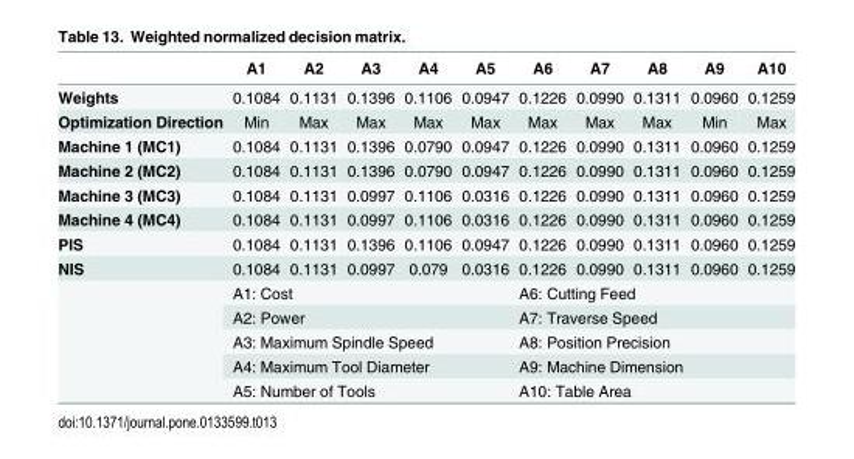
<table><thead><tr><td></td><td>A1</td><td>A2</td><td>A3</td><td>A4</td><td>A5</td><td>A6</td><td>A7</td><td>A8</td><td>A9</td><td>A10</td></tr></thead><tbody><tr><td>Weights</td><td>0.1084</td><td>0.1131</td><td>0.1396</td><td>0.1106</td><td>0.0947</td><td>0.1226</td><td>0.0990</td><td>0.1311</td><td>0.0960</td><td>0.1259</td></tr><tr><td>Optimization Direction</td><td>Min</td><td>Max</td><td>Max</td><td>Max</td><td>Max</td><td>Max</td><td>Max</td><td>Max</td><td>Min</td><td>Max</td></tr><tr><td>Machine 1 (MC1)</td><td>0.1084</td><td>0.1131</td><td>0.1396</td><td>0.0790</td><td>0.0947</td><td>0.1226</td><td>0.0990</td><td>0.1311</td><td>0.0960</td><td>0.1259</td></tr><tr><td>Machine 2 (MC2)</td><td>0.1084</td><td>0.1131</td><td>0.1396</td><td>0.0790</td><td>0.0947</td><td>0.1226</td><td>0.0990</td><td>0.1311</td><td>0.0960</td><td>0.1259</td></tr><tr><td>Machine 3 (MC3)</td><td>0.1084</td><td>0.1131</td><td>0.0997</td><td>0.1106</td><td>0.0316</td><td>0.1226</td><td>0.0990</td><td>0.1311</td><td>0.0960</td><td>0.1259</td></tr><tr><td>Machine 4 (MC4)</td><td>0.1084</td><td>0.1131</td><td>0.0997</td><td>0.1106</td><td>0.0316</td><td>0.1226</td><td>0.0990</td><td>0.1311</td><td>0.0960</td><td>0.1259</td></tr><tr><td>PIS</td><td>0.1084</td><td>0.1131</td><td>0.1396</td><td>0.1106</td><td>0.0947</td><td>0.1226</td><td>0.0990</td><td>0.1311</td><td>0.0960</td><td>0.1259</td></tr><tr><td rowspan="6">NIS</td><td>0.1084</td><td>0.1131</td><td>0.0997</td><td>0.079</td><td>0.0316</td><td>0.1226</td><td>0.0990</td><td>0.1311</td><td>0.0960</td><td>0.1259</td></tr><tr><td colspan="5">A1: Cost</td><td colspan="5">A6: Cutting Feed</td></tr><tr><td colspan="5">A2: Power</td><td colspan="5">A7: Traverse Speed</td></tr><tr><td colspan="5">A3: Maximum Spindle Speed</td><td colspan="5">A8: Position Precision</td></tr><tr><td colspan="5">A4: Maximum Tool Diameter</td><td colspan="5">A9: Machine Dimension</td></tr><tr><td colspan="5">A5: Number of Tools</td><td colspan="5">A10: Table Area</td></tr></tbody></table>